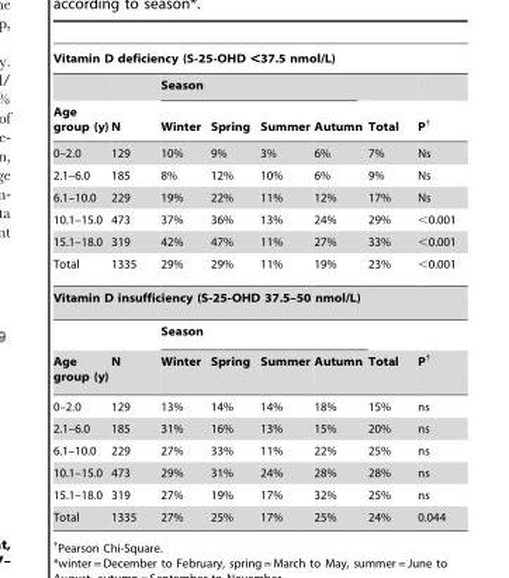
<table><thead><tr><td colspan="8">Vitamin D deficiency (S-25-OHD &lt;37.5 nmol/L)</td></tr><tr><td rowspan="2">Age group (y)</td><td rowspan="2">N</td><td colspan="4">Season</td><td rowspan="2">Total</td><td rowspan="2">P†</td></tr><tr><td>Winter</td><td>Spring</td><td>Summer</td><td>Autumn</td></tr></thead><tbody><tr><td>0–2.0</td><td>129</td><td>10%</td><td>9%</td><td>3%</td><td>6%</td><td>7%</td><td>Ns</td></tr><tr><td>2.1–6.0</td><td>185</td><td>8%</td><td>12%</td><td>10%</td><td>6%</td><td>9%</td><td>Ns</td></tr><tr><td>6.1–10.0</td><td>229</td><td>19%</td><td>22%</td><td>11%</td><td>12%</td><td>17%</td><td>Ns</td></tr><tr><td>10.1–15.0</td><td>473</td><td>37%</td><td>36%</td><td>13%</td><td>24%</td><td>29%</td><td>&lt;0.001</td></tr><tr><td>15.1–18.0</td><td>319</td><td>42%</td><td>47%</td><td>11%</td><td>27%</td><td>33%</td><td>&lt;0.001</td></tr><tr><td>Total</td><td>1335</td><td>29%</td><td>29%</td><td>11%</td><td>19%</td><td>23%</td><td>&lt;0.001</td></tr><tr><td colspan="8">Vitamin D insufficiency (S-25-OHD 37.5–50 nmol/L)</td></tr><tr><td></td><td></td><td colspan="4">Season</td><td></td><td></td></tr><tr><td>Age group (y)</td><td>N</td><td>Winter</td><td>Spring</td><td>Summer</td><td>Autumn</td><td>Total</td><td>P†</td></tr><tr><td>0–2.0</td><td>129</td><td>13%</td><td>14%</td><td>14%</td><td>18%</td><td>15%</td><td>ns</td></tr><tr><td>2.1–6.0</td><td>185</td><td>31%</td><td>16%</td><td>13%</td><td>15%</td><td>20%</td><td>ns</td></tr><tr><td>6.1–10.0</td><td>229</td><td>27%</td><td>33%</td><td>11%</td><td>22%</td><td>25%</td><td>ns</td></tr><tr><td>10.1–15.0</td><td>473</td><td>29%</td><td>31%</td><td>24%</td><td>28%</td><td>28%</td><td>ns</td></tr><tr><td>15.1–18.0</td><td>319</td><td>27%</td><td>19%</td><td>17%</td><td>32%</td><td>25%</td><td>ns</td></tr><tr><td>Total</td><td>1335</td><td>27%</td><td>25%</td><td>17%</td><td>25%</td><td>24%</td><td>0.044</td></tr></tbody></table>